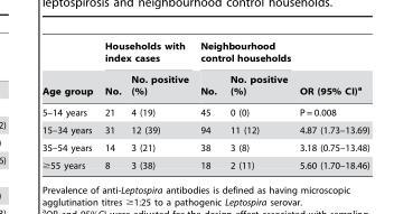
<table><thead><tr><td rowspan="2">Age group</td><td colspan="2">Households with index cases</td><td colspan="2">Neighbourhood control households</td><td rowspan="2">OR (95% CI)<sup>a</sup></td></tr><tr><td>No.</td><td>No. positive (%)</td><td>No.</td><td>No. positive (%)</td></tr></thead><tbody><tr><td>5–14 years</td><td>21</td><td>4 (19)</td><td>45</td><td>0 (0)</td><td>P = 0.008</td></tr><tr><td>15–34 years</td><td>31</td><td>12 (39)</td><td>94</td><td>11 (12)</td><td>4.87 (1.73–13.69)</td></tr><tr><td>35–54 years</td><td>14</td><td>3 (21)</td><td>38</td><td>3 (8)</td><td>3.18 (0.75–13.48)</td></tr><tr><td>≥55 years</td><td>8</td><td>3 (38)</td><td>18</td><td>2 (11)</td><td>5.60 (1.70–18.46)</td></tr></tbody></table>